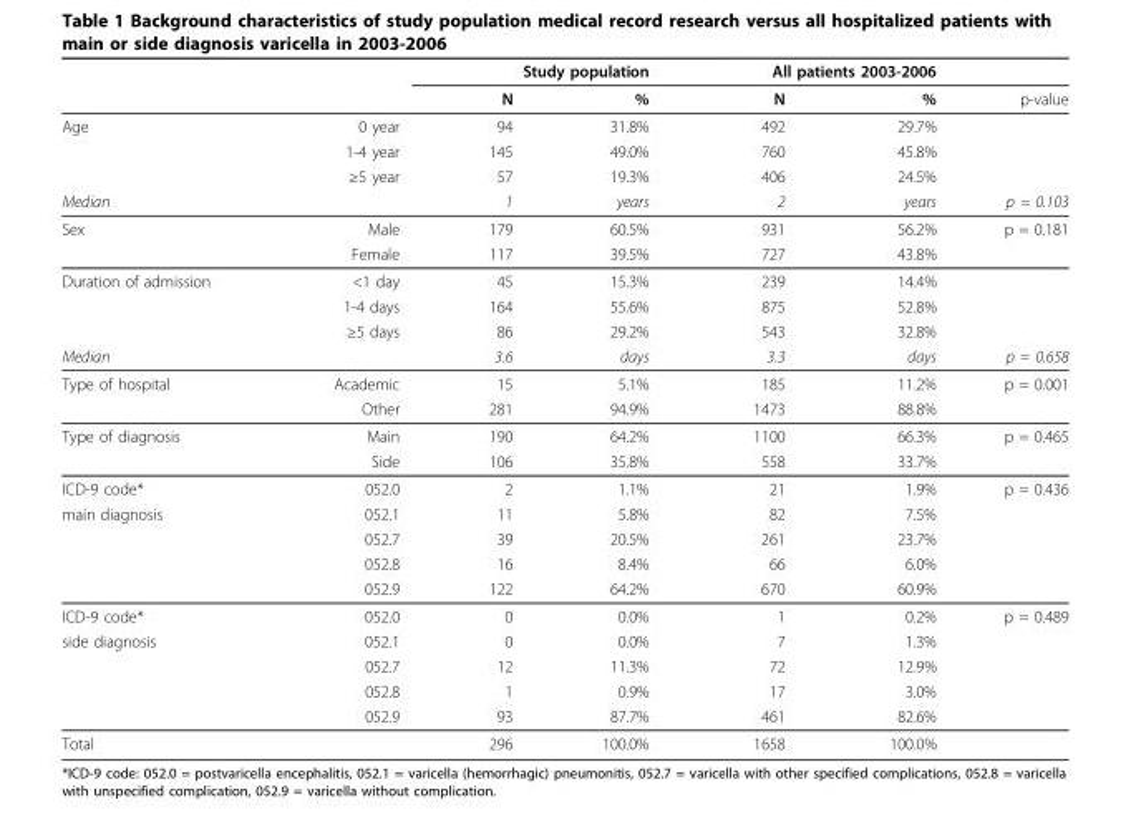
<table><thead><tr><td rowspan="2"></td><td rowspan="2"></td><td colspan="2">Study population</td><td colspan="2">All patients 2003-2006</td><td rowspan="2">p-value</td></tr><tr><td>N</td><td>%</td><td>N</td><td>%</td></tr></thead><tbody><tr><td rowspan="3">Age</td><td>0 year</td><td>94</td><td>31.8%</td><td>492</td><td>29.7%</td><td></td></tr><tr><td>1-4 year</td><td>145</td><td>49.0%</td><td>760</td><td>45.8%</td><td></td></tr><tr><td>≥5 year</td><td>57</td><td>19.3%</td><td>406</td><td>24.5%</td><td></td></tr><tr><td>Median</td><td></td><td>1</td><td>years</td><td>2</td><td>years</td><td>p = 0.103</td></tr><tr><td rowspan="2">Sex</td><td>Male</td><td>179</td><td>60.5%</td><td>931</td><td>56.2%</td><td>p = 0.181</td></tr><tr><td>Female</td><td>117</td><td>39.5%</td><td>727</td><td>43.8%</td><td></td></tr><tr><td rowspan="3">Duration of admission</td><td>&lt;1 day</td><td>45</td><td>15.3%</td><td>239</td><td>14.4%</td><td></td></tr><tr><td>1-4 days</td><td>164</td><td>55.6%</td><td>875</td><td>52.8%</td><td></td></tr><tr><td>≥5 days</td><td>86</td><td>29.2%</td><td>543</td><td>32.8%</td><td></td></tr><tr><td>Median</td><td></td><td>3.6</td><td>days</td><td>3.3</td><td>days</td><td>p = 0.658</td></tr><tr><td rowspan="2">Type of hospital</td><td>Academic</td><td>15</td><td>5.1%</td><td>185</td><td>11.2%</td><td>p = 0.001</td></tr><tr><td>Other</td><td>281</td><td>94.9%</td><td>1473</td><td>88.8%</td><td></td></tr><tr><td rowspan="2">Type of diagnosis</td><td>Main</td><td>190</td><td>64.2%</td><td>1100</td><td>66.3%</td><td>p = 0.465</td></tr><tr><td>Side</td><td>106</td><td>35.8%</td><td>558</td><td>33.7%</td><td></td></tr><tr><td>ICD-9 code*</td><td>052.0</td><td>2</td><td>1.1%</td><td>21</td><td>1.9%</td><td>p = 0.436</td></tr><tr><td rowspan="4">main diagnosis</td><td>052.1</td><td>11</td><td>5.8%</td><td>82</td><td>7.5%</td><td></td></tr><tr><td>052.7</td><td>39</td><td>20.5%</td><td>261</td><td>23.7%</td><td></td></tr><tr><td>052.8</td><td>16</td><td>8.4%</td><td>66</td><td>6.0%</td><td></td></tr><tr><td>052.9</td><td>122</td><td>64.2%</td><td>670</td><td>60.9%</td><td></td></tr><tr><td>ICD-9 code*</td><td>052.0</td><td>0</td><td>0.0%</td><td>1</td><td>0.2%</td><td>p = 0.489</td></tr><tr><td rowspan="4">side diagnosis</td><td>052.1</td><td>0</td><td>0.0%</td><td>7</td><td>1.3%</td><td></td></tr><tr><td>052.7</td><td>12</td><td>11.3%</td><td>72</td><td>12.9%</td><td></td></tr><tr><td>052.8</td><td>1</td><td>0.9%</td><td>17</td><td>3.0%</td><td></td></tr><tr><td>052.9</td><td>93</td><td>87.7%</td><td>461</td><td>82.6%</td><td></td></tr><tr><td>Total</td><td></td><td>296</td><td>100.0%</td><td>1658</td><td>100.0%</td><td></td></tr></tbody></table>